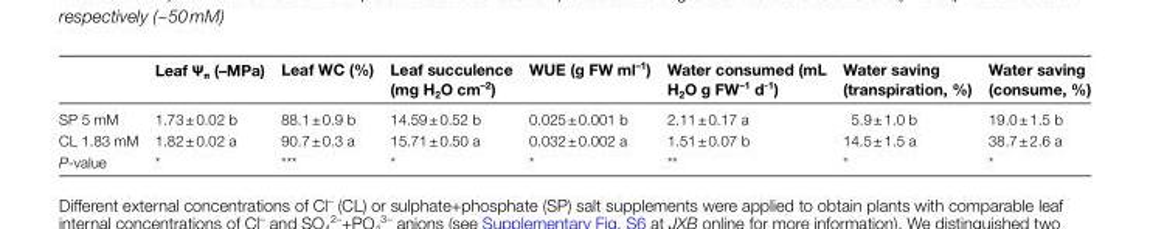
<table><thead><tr><td></td><td>Leaf Ψ<sub>π</sub> (–MPa)</td><td>Leaf WC (%)</td><td>Leaf succulence (mg H<sub>2</sub>O cm<sup>–2</sup>)</td><td>WUE (g FW ml<sup>–1</sup>)</td><td>Water consumed (mL H<sub>2</sub>O g FW<sup>–1</sup> d<sup>-1</sup>)</td><td>Water saving (transpiration, %)</td><td>Water saving (consume, %)</td></tr></thead><tbody><tr><td>SP 5 mM</td><td>1.73 ± 0.02 b</td><td>88.1 ± 0.9 b</td><td>14.59 ± 0.52 b</td><td>0.025 ± 0.001 b</td><td>2.11 ± 0.17 a</td><td>5.9 ± 1.0 b</td><td>19.0 ± 1.5 b</td></tr><tr><td>CL 1.83 mM</td><td>1.82 ± 0.02 a</td><td>90.7 ± 0.3 a</td><td>15.71 ± 0.50 a</td><td>0.032 ± 0.002 a</td><td>1.51 ± 0.07 b</td><td>14.5 ± 1.5 a</td><td>38.7 ± 2.6 a</td></tr><tr><td>P-value</td><td>*</td><td>***</td><td>*</td><td>*</td><td>**</td><td>*</td><td>*</td></tr></tbody></table>